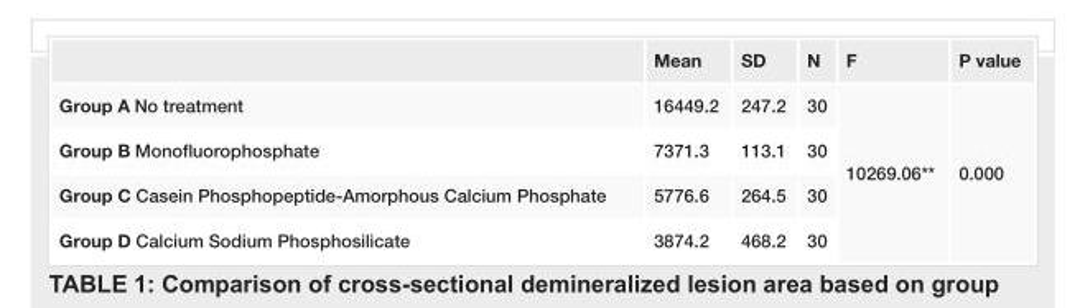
<table><thead><tr><td></td><td>Mean</td><td>SD</td><td>N</td><td>F</td><td>P value</td></tr></thead><tbody><tr><td>Group A No treatment</td><td>16449.2</td><td>247.2</td><td>30</td><td rowspan="4">10269.06**</td><td rowspan="4">0.000</td></tr><tr><td>Group B Monofluorophosphate</td><td>7371.3</td><td>113.1</td><td>30</td></tr><tr><td>Group C Casein Phosphopeptide-Amorphous Calcium Phosphate</td><td>5776.6</td><td>264.5</td><td>30</td></tr><tr><td>Group D Calcium Sodium Phosphosilicate</td><td>3874.2</td><td>468.2</td><td>30</td></tr></tbody></table>